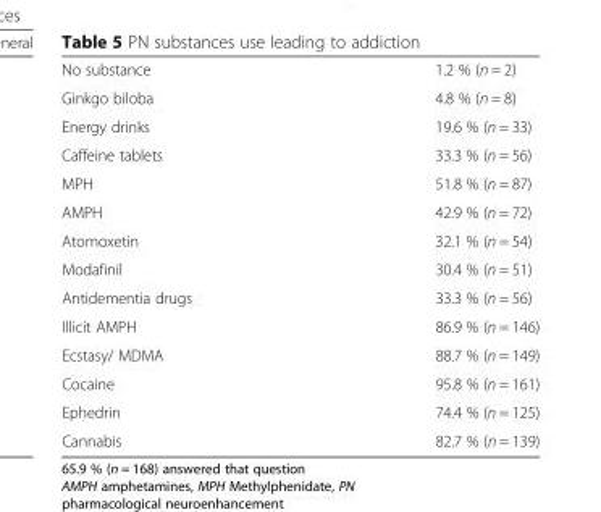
<table><tbody><tr><td>No substance</td><td>1.2 % (n = 2)</td></tr><tr><td>Ginkgo biloba</td><td>4.8 % (n = 8)</td></tr><tr><td>Energy drinks</td><td>19.6 % (n = 33)</td></tr><tr><td>Caffeine tablets</td><td>33.3 % (n = 56)</td></tr><tr><td>MPH</td><td>51.8 % (n = 87)</td></tr><tr><td>AMPH</td><td>42.9 % (n = 72)</td></tr><tr><td>Atomoxetin</td><td>32.1 % (n = 54)</td></tr><tr><td>Modafinil</td><td>30.4 % (n = 51)</td></tr><tr><td>Antidementia drugs</td><td>33.3 % (n = 56)</td></tr><tr><td>Illicit AMPH</td><td>86.9 % (n = 146)</td></tr><tr><td>Ecstasy/ MDMA</td><td>88.7 % (n = 149)</td></tr><tr><td>Cocaine</td><td>95.8 % (n = 161)</td></tr><tr><td>Ephedrin</td><td>74.4 % (n = 125)</td></tr><tr><td>Cannabis</td><td>82.7 % (n = 139)</td></tr></tbody></table>